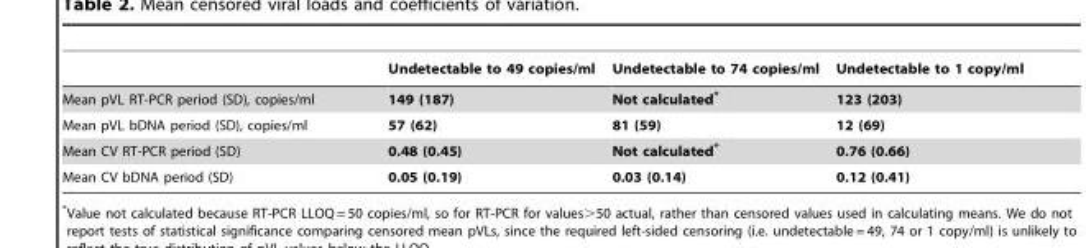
<table><thead><tr><td></td><td>Undetectable to 49 copies/ml</td><td>Undetectable to 74 copies/ml</td><td>Undetectable to 1 copy/ml</td></tr></thead><tbody><tr><td>Mean pVL RT-PCR period (SD), copies/ml</td><td>149 (187)</td><td>Not calculated*</td><td>123 (203)</td></tr><tr><td>Mean pVL bDNA period (SD), copies/ml</td><td>57 (62)</td><td>81 (59)</td><td>12 (69)</td></tr><tr><td>Mean CV RT-PCR period (SD)</td><td>0.48 (0.45)</td><td>Not calculated*</td><td>0.76 (0.66)</td></tr><tr><td>Mean CV bDNA period (SD)</td><td>0.05 (0.19)</td><td>0.03 (0.14)</td><td>0.12 (0.41)</td></tr></tbody></table>